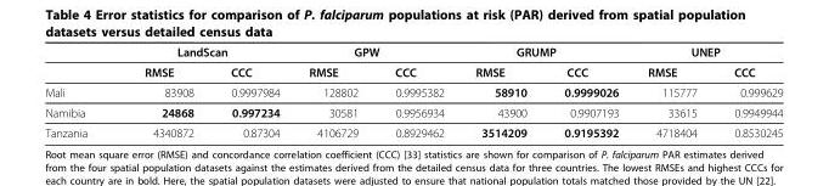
<table><thead><tr><td rowspan="2"></td><td colspan="2">LandScan</td><td colspan="2">GPW</td><td colspan="2">GRUMP</td><td colspan="2">UNEP</td></tr><tr><td>RMSE</td><td>CCC</td><td>RMSE</td><td>CCC</td><td>RMSE</td><td>CCC</td><td>RMSE</td><td>CCC</td></tr></thead><tbody><tr><td>Mali</td><td>83908</td><td>0.9997984</td><td>128802</td><td>0.9995382</td><td>58910</td><td>0.9999026</td><td>115777</td><td>0.999629</td></tr><tr><td>Namibia</td><td>24868</td><td>0.997234</td><td>30581</td><td>0.9956934</td><td>43900</td><td>0.9907193</td><td>33615</td><td>0.9949944</td></tr><tr><td>Tanzania</td><td>4340872</td><td>0.87304</td><td>4106729</td><td>0.8929462</td><td>3514209</td><td>0.9195392</td><td>4718404</td><td>0.8530245</td></tr></tbody></table>